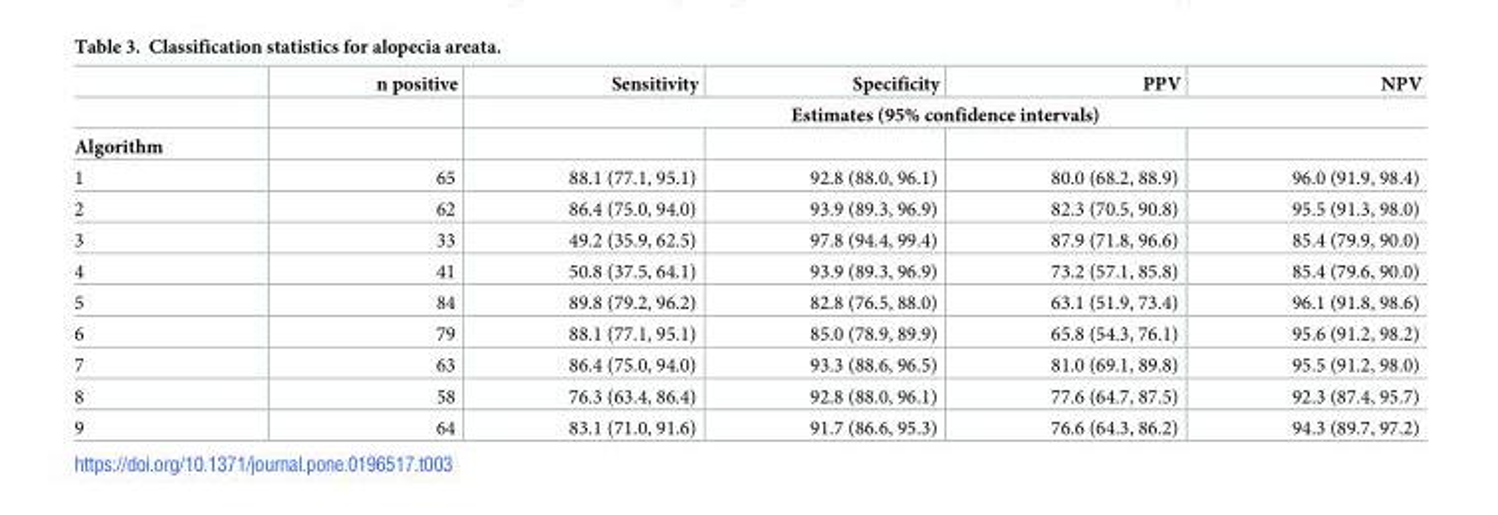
<table><thead><tr><td rowspan="3">Algorithm</td><td rowspan="3">n positive</td><td>Sensitivity</td><td>Specificity</td><td>PPV</td><td>NPV</td></tr><tr><td colspan="4">Estimates (95% confidence intervals)</td></tr><tr><td></td><td></td><td></td><td></td></tr></thead><tbody><tr><td>1</td><td>65</td><td>88.1 (77.1, 95.1)</td><td>92.8 (88.0, 96.1)</td><td>80.0 (68.2, 88.9)</td><td>96.0 (91.9, 98.4)</td></tr><tr><td>2</td><td>62</td><td>86.4 (75.0, 94.0)</td><td>93.9 (89.3, 96.9)</td><td>82.3 (70.5, 90.8)</td><td>95.5 (91.3, 98.0)</td></tr><tr><td>3</td><td>33</td><td>49.2 (35.9, 62.5)</td><td>97.8 (94.4, 99.4)</td><td>87.9 (71.8, 96.6)</td><td>85.4 (79.9, 90.0)</td></tr><tr><td>4</td><td>41</td><td>50.8 (37.5, 64.1)</td><td>93.9 (89.3, 96.9)</td><td>73.2 (57.1, 85.8)</td><td>85.4 (79.6, 90.0)</td></tr><tr><td>5</td><td>84</td><td>89.8 (79.2, 96.2)</td><td>82.8 (76.5, 88.0)</td><td>63.1 (51.9, 73.4)</td><td>96.1 (91.8, 98.6)</td></tr><tr><td>6</td><td>79</td><td>88.1 (77.1, 95.1)</td><td>85.0 (78.9, 89.9)</td><td>65.8 (54.3, 76.1)</td><td>95.6 (91.2, 98.2)</td></tr><tr><td>7</td><td>63</td><td>86.4 (75.0, 94.0)</td><td>93.3 (88.6, 96.5)</td><td>81.0 (69.1, 89.8)</td><td>95.5 (91.2, 98.0)</td></tr><tr><td>8</td><td>58</td><td>76.3 (63.4, 86.4)</td><td>92.8 (88.0, 96.1)</td><td>77.6 (64.7, 87.5)</td><td>92.3 (87.4, 95.7)</td></tr><tr><td>9</td><td>64</td><td>83.1 (71.0, 91.6)</td><td>91.7 (86.6, 95.3)</td><td>76.6 (64.3, 86.2)</td><td>94.3 (89.7, 97.2)</td></tr></tbody></table>